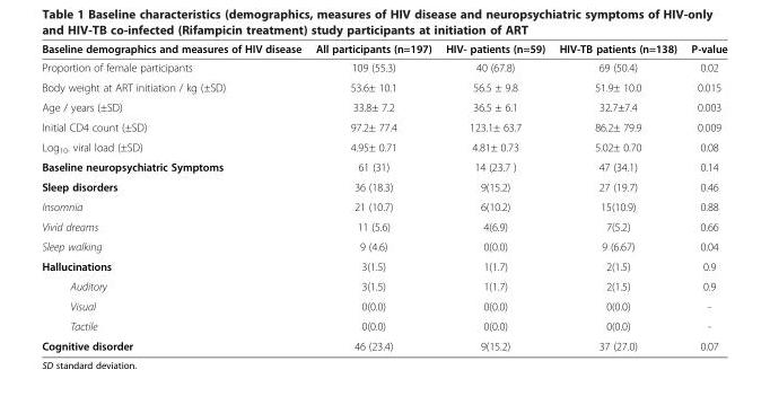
<table><thead><tr><td>Baseline demographics and measures of HIV disease</td><td>All participants (n=197)</td><td>HIV- patients (n=59)</td><td>HIV-TB patients (n=138)</td><td>P-value</td></tr></thead><tbody><tr><td>Proportion of female participants</td><td>109 (55.3)</td><td>40 (67.8)</td><td>69 (50.4)</td><td>0.02</td></tr><tr><td>Body weight at ART initiation / kg (±SD)</td><td>53.6± 10.1</td><td>56.5 ± 9.8</td><td>51.9± 10.0</td><td>0.015</td></tr><tr><td>Age / years (±SD)</td><td>33.8± 7.2</td><td>36.5 ± 6.1</td><td>32.7±7.4</td><td>0.003</td></tr><tr><td>Initial CD4 count (±SD)</td><td>97.2± 77.4</td><td>123.1± 63.7</td><td>86.2± 79.9</td><td>0.009</td></tr><tr><td>Log<sub>10</sub>. viral load (±SD)</td><td>4.95± 0.71</td><td>4.81± 0.73</td><td>5.02± 0.70</td><td>0.08</td></tr><tr><td>Baseline neuropsychiatric Symptoms</td><td>61 (31)</td><td>14 (23.7 )</td><td>47 (34.1)</td><td>0.14</td></tr><tr><td>Sleep disorders</td><td>36 (18.3)</td><td>9(15.2)</td><td>27 (19.7)</td><td>0.46</td></tr><tr><td>Insomnia</td><td>21 (10.7)</td><td>6(10.2)</td><td>15(10.9)</td><td>0.88</td></tr><tr><td>Vivid dreams</td><td>11 (5.6)</td><td>4(6.9)</td><td>7(5.2)</td><td>0.66</td></tr><tr><td>Sleep walking</td><td>9 (4.6)</td><td>0(0.0)</td><td>9 (6.67)</td><td>0.04</td></tr><tr><td>Hallucinations</td><td>3(1.5)</td><td>1(1.7)</td><td>2(1.5)</td><td>0.9</td></tr><tr><td>Auditory</td><td>3(1.5)</td><td>1(1.7)</td><td>2(1.5)</td><td>0.9</td></tr><tr><td>Visual</td><td>0(0.0)</td><td>0(0.0)</td><td>0(0.0)</td><td>-</td></tr><tr><td>Tactile</td><td>0(0.0)</td><td>0(0.0)</td><td>0(0.0)</td><td>-</td></tr><tr><td>Cognitive disorder</td><td>46 (23.4)</td><td>9(15.2)</td><td>37 (27.0)</td><td>0.07</td></tr></tbody></table>